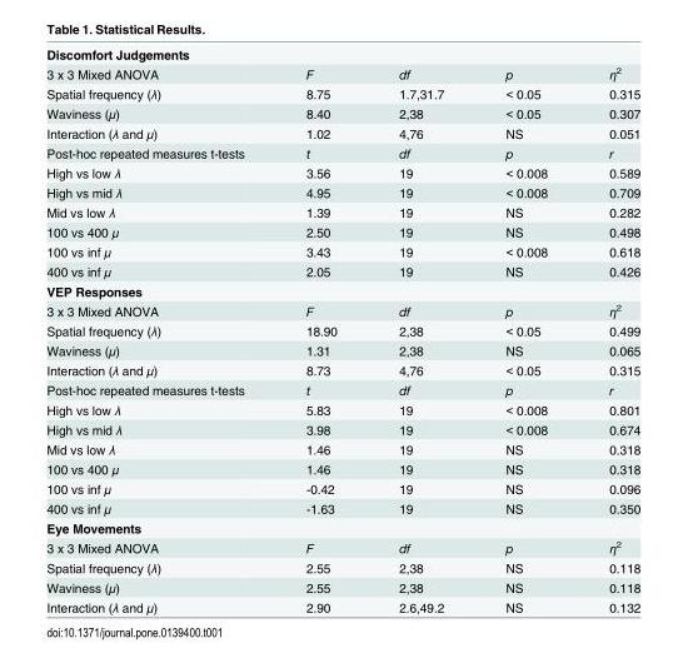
<table><tbody><tr><td colspan="5">Discomfort Judgements</td></tr><tr><td>3 x 3 Mixed ANOVA</td><td>F</td><td>df</td><td>p</td><td>η<sup>2</sup></td></tr><tr><td>Spatial frequency (λ)</td><td>8.75</td><td>1.7,31.7</td><td>&lt; 0.05</td><td>0.315</td></tr><tr><td>Waviness (μ)</td><td>8.40</td><td>2,38</td><td>&lt; 0.05</td><td>0.307</td></tr><tr><td>Interaction (λ and μ)</td><td>1.02</td><td>4,76</td><td>NS</td><td>0.051</td></tr><tr><td>Post-hoc repeated measures t-tests</td><td>t</td><td>df</td><td>p</td><td>r</td></tr><tr><td>High vs low λ</td><td>3.56</td><td>19</td><td>&lt; 0.008</td><td>0.589</td></tr><tr><td>High vs mid λ</td><td>4.95</td><td>19</td><td>&lt; 0.008</td><td>0.709</td></tr><tr><td>Mid vs low λ</td><td>1.39</td><td>19</td><td>NS</td><td>0.282</td></tr><tr><td>100 vs 400 μ</td><td>2.50</td><td>19</td><td>NS</td><td>0.498</td></tr><tr><td>100 vs inf μ</td><td>3.43</td><td>19</td><td>&lt; 0.008</td><td>0.618</td></tr><tr><td>400 vs inf μ</td><td>2.05</td><td>19</td><td>NS</td><td>0.426</td></tr><tr><td colspan="5">VEP Responses</td></tr><tr><td>3 x 3 Mixed ANOVA</td><td>F</td><td>df</td><td>p</td><td>η<sup>2</sup></td></tr><tr><td>Spatial frequency (λ)</td><td>18.90</td><td>2,38</td><td>&lt; 0.05</td><td>0.499</td></tr><tr><td>Waviness (μ)</td><td>1.31</td><td>2,38</td><td>NS</td><td>0.065</td></tr><tr><td>Interaction (λ and μ)</td><td>8.73</td><td>4,76</td><td>&lt; 0.05</td><td>0.315</td></tr><tr><td>Post-hoc repeated measures t-tests</td><td>t</td><td>df</td><td>p</td><td>r</td></tr><tr><td>High vs low λ</td><td>5.83</td><td>19</td><td>&lt; 0.008</td><td>0.801</td></tr><tr><td>High vs mid λ</td><td>3.98</td><td>19</td><td>&lt; 0.008</td><td>0.674</td></tr><tr><td>Mid vs low λ</td><td>1.46</td><td>19</td><td>NS</td><td>0.318</td></tr><tr><td>100 vs 400 μ</td><td>1.46</td><td>19</td><td>NS</td><td>0.318</td></tr><tr><td>100 vs inf μ</td><td>-0.42</td><td>19</td><td>NS</td><td>0.096</td></tr><tr><td>400 vs inf μ</td><td>-1.63</td><td>19</td><td>NS</td><td>0.350</td></tr><tr><td colspan="5">Eye Movements</td></tr><tr><td>3 x 3 Mixed ANOVA</td><td>F</td><td>df</td><td>p</td><td>η<sup>2</sup></td></tr><tr><td>Spatial frequency (λ)</td><td>2.55</td><td>2,38</td><td>NS</td><td>0.118</td></tr><tr><td>Waviness (μ)</td><td>2.55</td><td>2,38</td><td>NS</td><td>0.118</td></tr><tr><td>Interaction (λ and μ)</td><td>2.90</td><td>2.6,49.2</td><td>NS</td><td>0.132</td></tr></tbody></table>